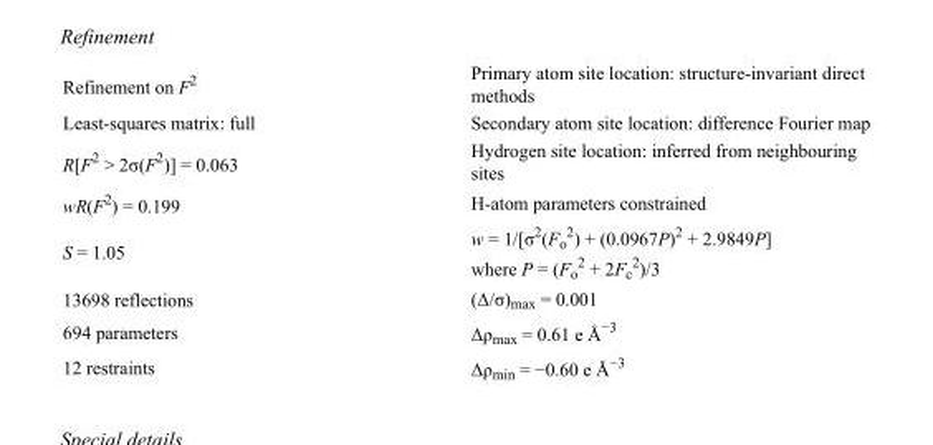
<table><tbody><tr><td>Refinement on F<sup>2</sup></td><td>Primary atom site location: structure-invariant direct methods</td></tr><tr><td>Least-squares matrix: full</td><td>Secondary atom site location: difference Fourier map</td></tr><tr><td>R[F<sup>2</sup> &gt; 2σ(F<sup>2</sup>)] = 0.063</td><td>Hydrogen site location: inferred from neighbouring sites</td></tr><tr><td>wR(F<sup>2</sup>) = 0.199</td><td>H-atom parameters constrained</td></tr><tr><td>S = 1.05</td><td>w = 1/[σ<sup>2</sup>(F<sub>o</sub> <sup>2</sup>) + (0.0967P)<sup>2</sup> + 2.9849P] where P = (F<sub>o</sub> <sup>2</sup> + 2F<sub>c</sub> <sup>2</sup>)/3</td></tr><tr><td>13698 reflections</td><td>(Δ/σ)<sub>max</sub> = 0.001</td></tr><tr><td>694 parameters</td><td>Δρ<sub>max</sub> = 0.61 e Å<sup>−3</sup></td></tr><tr><td>12 restraints</td><td>Δρ<sub>min</sub> = −0.60 e Å<sup>−3</sup></td></tr></tbody></table>